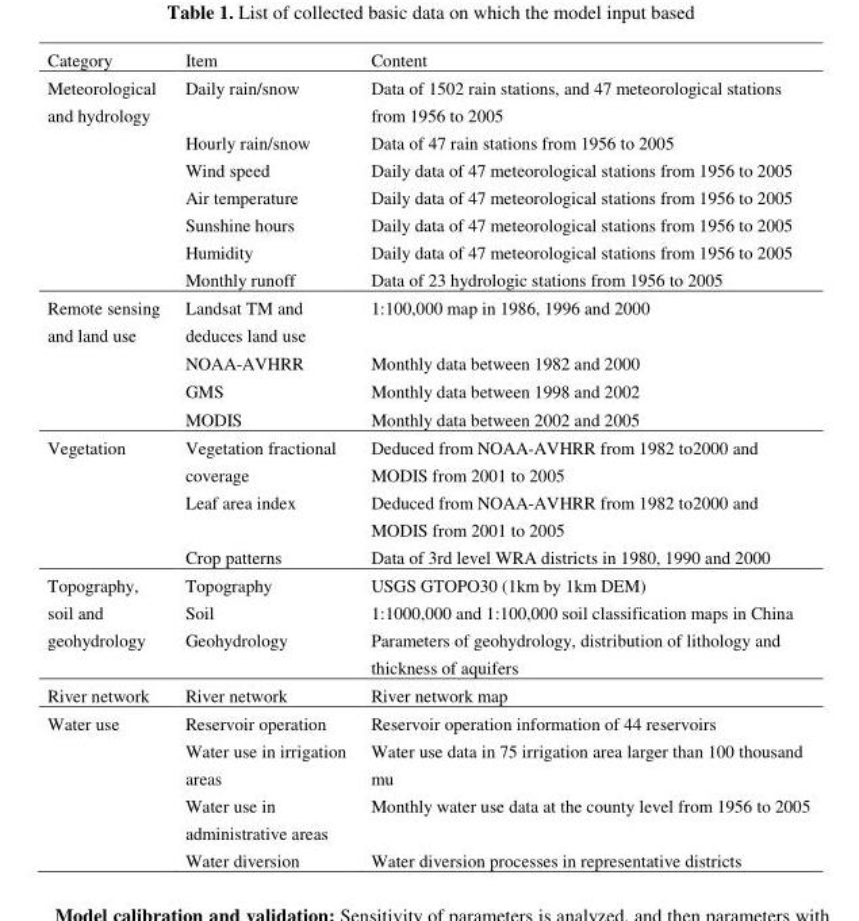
<table><thead><tr><td>Category</td><td>Item</td><td>Content</td></tr></thead><tbody><tr><td rowspan="7">Meteorological and hydrology</td><td>Daily rain/snow</td><td>Data of 1502 rain stations, and 47 meteorological stations from 1956 to 2005</td></tr><tr><td>Hourly rain/snow</td><td>Data of 47 rain stations from 1956 to 2005</td></tr><tr><td>Wind speed</td><td>Daily data of 47 meteorological stations from 1956 to 2005</td></tr><tr><td>Air temperature</td><td>Daily data of 47 meteorological stations from 1956 to 2005</td></tr><tr><td>Sunshine hours</td><td>Daily data of 47 meteorological stations from 1956 to 2005</td></tr><tr><td>Humidity</td><td>Daily data of 47 meteorological stations from 1956 to 2005</td></tr><tr><td>Monthly runoff</td><td>Data of 23 hydrologic stations from 1956 to 2005</td></tr><tr><td rowspan="4">Remote sensing and land use</td><td>Landsat TM and deduces land use</td><td>1:100,000 map in 1986, 1996 and 2000</td></tr><tr><td>NOAA-AVHRR</td><td>Monthly data between 1982 and 2000</td></tr><tr><td>GMS</td><td>Monthly data between 1998 and 2002</td></tr><tr><td>MODIS</td><td>Monthly data between 2002 and 2005</td></tr><tr><td rowspan="3">Vegetation</td><td>Vegetation fractional coverage</td><td>Deduced from NOAA-AVHRR from 1982 to2000 and MODIS from 2001 to 2005</td></tr><tr><td>Leaf area index</td><td>Deduced from NOAA-AVHRR from 1982 to2000 and MODIS from 2001 to 2005</td></tr><tr><td>Crop patterns</td><td>Data of 3rd level WRA districts in 1980, 1990 and 2000</td></tr><tr><td rowspan="3">Topography, soil and geohydrology</td><td>Topography</td><td>USGS GTOPO30 (1km by 1km DEM)</td></tr><tr><td>Soil</td><td>1:1000,000 and 1:100,000 soil classification maps in China</td></tr><tr><td>Geohydrology</td><td>Parameters of geohydrology, distribution of lithology and thickness of aquifers</td></tr><tr><td>River network</td><td>River network</td><td>River network map</td></tr><tr><td rowspan="4">Water use</td><td>Reservoir operation</td><td>Reservoir operation information of 44 reservoirs</td></tr><tr><td>Water use in irrigation areas</td><td>Water use data in 75 irrigation area larger than 100 thousand mu</td></tr><tr><td>Water use in administrative areas</td><td>Monthly water use data at the county level from 1956 to 2005</td></tr><tr><td>Water diversion</td><td>Water diversion processes in representative districts</td></tr></tbody></table>